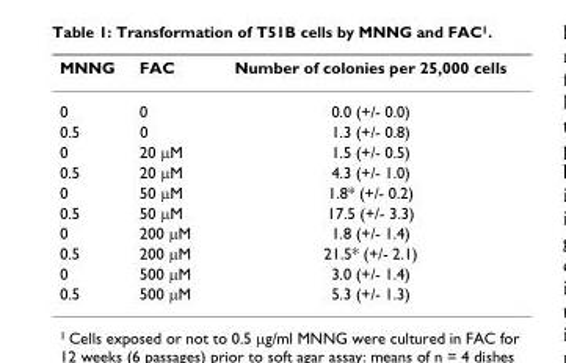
<table><thead><tr><td>MNNG</td><td>FAC</td><td>Number of colonies per 25,000 cells</td></tr></thead><tbody><tr><td>0</td><td>0</td><td>0.0 (+/- 0.0)</td></tr><tr><td>0.5</td><td>0</td><td>1.3 (+/- 0.8)</td></tr><tr><td>0</td><td>20 μM</td><td>1.5 (+/- 0.5)</td></tr><tr><td>0.5</td><td>20 μM</td><td>4.3 (+/- 1.0)</td></tr><tr><td>0</td><td>50 μM</td><td>1.8* (+/- 0.2)</td></tr><tr><td>0.5</td><td>50 μM</td><td>17.5 (+/- 3.3)</td></tr><tr><td>0</td><td>200 μM</td><td>1.8 (+/- 1.4)</td></tr><tr><td>0.5</td><td>200 μM</td><td>21.5* (+/- 2.1)</td></tr><tr><td>0</td><td>500 μM</td><td>3.0 (+/- 1.4)</td></tr><tr><td>0.5</td><td>500 μM</td><td>5.3 (+/- 1.3)</td></tr></tbody></table>